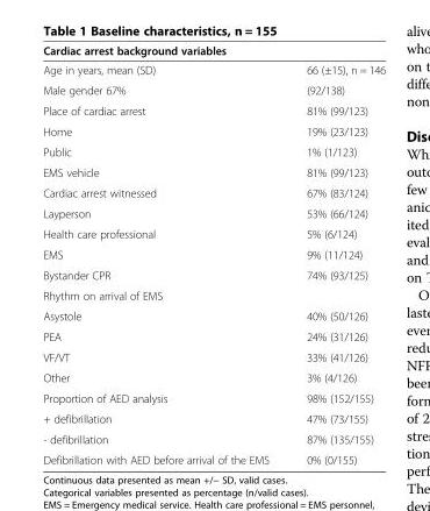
<table><thead><tr><td colspan="2">Cardiac arrest background variables</td></tr><tr><td>Age in years, mean (SD)</td><td>66 (±15), n = 146</td></tr></thead><tbody><tr><td>Male gender 67%</td><td>(92/138)</td></tr><tr><td>Place of cardiac arrest</td><td>81% (99/123)</td></tr><tr><td>Home</td><td>19% (23/123)</td></tr><tr><td>Public</td><td>1% (1/123)</td></tr><tr><td>EMS vehicle</td><td>81% (99/123)</td></tr><tr><td>Cardiac arrest witnessed</td><td>67% (83/124)</td></tr><tr><td>Layperson</td><td>53% (66/124)</td></tr><tr><td>Health care professional</td><td>5% (6/124)</td></tr><tr><td>EMS</td><td>9% (11/124)</td></tr><tr><td>Bystander CPR</td><td>74% (93/125)</td></tr><tr><td colspan="2">Rhythm on arrival of EMS</td></tr><tr><td>Asystole</td><td>40% (50/126)</td></tr><tr><td>PEA</td><td>24% (31/126)</td></tr><tr><td>VF/VT</td><td>33% (41/126)</td></tr><tr><td>Other</td><td>3% (4/126)</td></tr><tr><td>Proportion of AED analysis</td><td>98% (152/155)</td></tr><tr><td>+ defibrillation</td><td>47% (73/155)</td></tr><tr><td>- defibrillation</td><td>87% (135/155)</td></tr><tr><td>Defibrillation with AED before arrival of the EMS</td><td>0% (0/155)</td></tr></tbody></table>